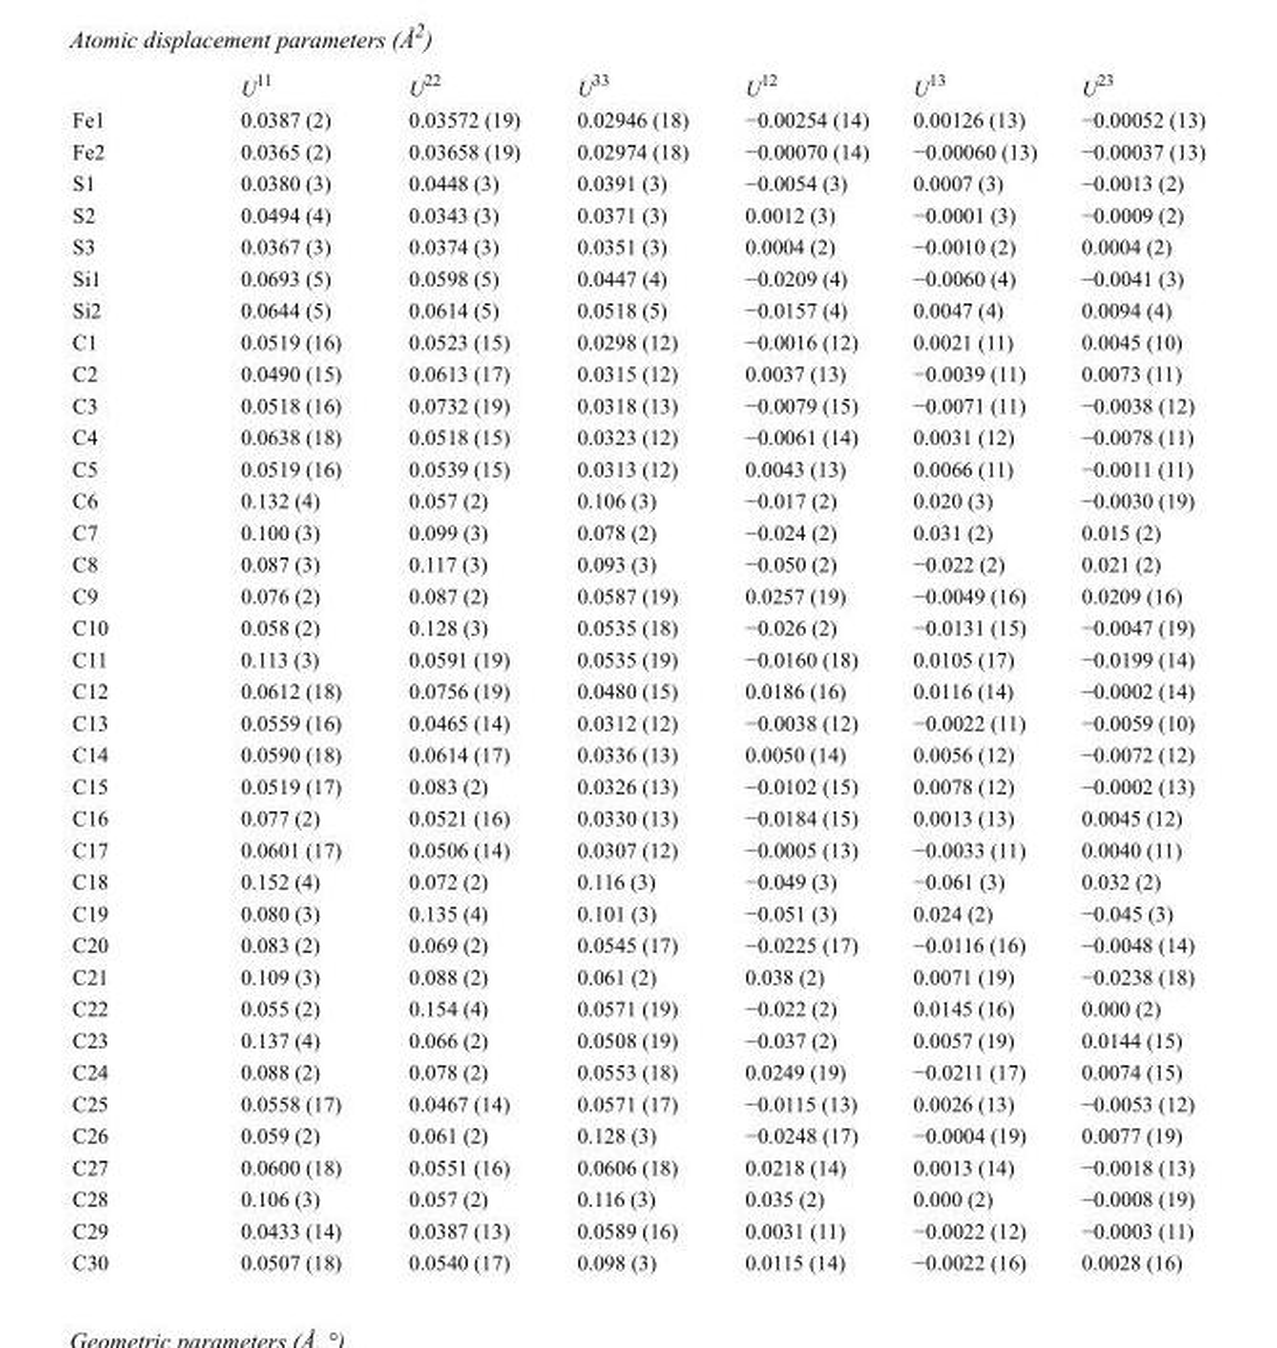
<table><thead><tr><td></td><td>U<sup>11</sup></td><td>U<sup>22</sup></td><td>U<sup>33</sup></td><td>U<sup>12</sup></td><td>U<sup>13</sup></td><td>U<sup>23</sup></td></tr></thead><tbody><tr><td>Fe1</td><td>0.0387 (2)</td><td>0.03572 (19)</td><td>0.02946 (18)</td><td>−0.00254 (14)</td><td>0.00126 (13)</td><td>−0.00052 (13)</td></tr><tr><td>Fe2</td><td>0.0365 (2)</td><td>0.03658 (19)</td><td>0.02974 (18)</td><td>−0.00070 (14)</td><td>−0.00060 (13)</td><td>−0.00037 (13)</td></tr><tr><td>S1</td><td>0.0380 (3)</td><td>0.0448 (3)</td><td>0.0391 (3)</td><td>−0.0054 (3)</td><td>0.0007 (3)</td><td>−0.0013 (2)</td></tr><tr><td>S2</td><td>0.0494 (4)</td><td>0.0343 (3)</td><td>0.0371 (3)</td><td>0.0012 (3)</td><td>−0.0001 (3)</td><td>−0.0009 (2)</td></tr><tr><td>S3</td><td>0.0367 (3)</td><td>0.0374 (3)</td><td>0.0351 (3)</td><td>0.0004 (2)</td><td>−0.0010 (2)</td><td>0.0004 (2)</td></tr><tr><td>Si1</td><td>0.0693 (5)</td><td>0.0598 (5)</td><td>0.0447 (4)</td><td>−0.0209 (4)</td><td>−0.0060 (4)</td><td>−0.0041 (3)</td></tr><tr><td>Si2</td><td>0.0644 (5)</td><td>0.0614 (5)</td><td>0.0518 (5)</td><td>−0.0157 (4)</td><td>0.0047 (4)</td><td>0.0094 (4)</td></tr><tr><td>C1</td><td>0.0519 (16)</td><td>0.0523 (15)</td><td>0.0298 (12)</td><td>−0.0016 (12)</td><td>0.0021 (11)</td><td>0.0045 (10)</td></tr><tr><td>C2</td><td>0.0490 (15)</td><td>0.0613 (17)</td><td>0.0315 (12)</td><td>0.0037 (13)</td><td>−0.0039 (11)</td><td>0.0073 (11)</td></tr><tr><td>C3</td><td>0.0518 (16)</td><td>0.0732 (19)</td><td>0.0318 (13)</td><td>−0.0079 (15)</td><td>−0.0071 (11)</td><td>−0.0038 (12)</td></tr><tr><td>C4</td><td>0.0638 (18)</td><td>0.0518 (15)</td><td>0.0323 (12)</td><td>−0.0061 (14)</td><td>0.0031 (12)</td><td>−0.0078 (11)</td></tr><tr><td>C5</td><td>0.0519 (16)</td><td>0.0539 (15)</td><td>0.0313 (12)</td><td>0.0043 (13)</td><td>0.0066 (11)</td><td>−0.0011 (11)</td></tr><tr><td>C6</td><td>0.132 (4)</td><td>0.057 (2)</td><td>0.106 (3)</td><td>−0.017 (2)</td><td>0.020 (3)</td><td>−0.0030 (19)</td></tr><tr><td>C7</td><td>0.100 (3)</td><td>0.099 (3)</td><td>0.078 (2)</td><td>−0.024 (2)</td><td>0.031 (2)</td><td>0.015 (2)</td></tr><tr><td>C8</td><td>0.087 (3)</td><td>0.117 (3)</td><td>0.093 (3)</td><td>−0.050 (2)</td><td>−0.022 (2)</td><td>0.021 (2)</td></tr><tr><td>C9</td><td>0.076 (2)</td><td>0.087 (2)</td><td>0.0587 (19)</td><td>0.0257 (19)</td><td>−0.0049 (16)</td><td>0.0209 (16)</td></tr><tr><td>C10</td><td>0.058 (2)</td><td>0.128 (3)</td><td>0.0535 (18)</td><td>−0.026 (2)</td><td>−0.0131 (15)</td><td>−0.0047 (19)</td></tr><tr><td>C11</td><td>0.113 (3)</td><td>0.0591 (19)</td><td>0.0535 (19)</td><td>−0.0160 (18)</td><td>0.0105 (17)</td><td>−0.0199 (14)</td></tr><tr><td>C12</td><td>0.0612 (18)</td><td>0.0756 (19)</td><td>0.0480 (15)</td><td>0.0186 (16)</td><td>0.0116 (14)</td><td>−0.0002 (14)</td></tr><tr><td>C13</td><td>0.0559 (16)</td><td>0.0465 (14)</td><td>0.0312 (12)</td><td>−0.0038 (12)</td><td>−0.0022 (11)</td><td>−0.0059 (10)</td></tr><tr><td>C14</td><td>0.0590 (18)</td><td>0.0614 (17)</td><td>0.0336 (13)</td><td>0.0050 (14)</td><td>0.0056 (12)</td><td>−0.0072 (12)</td></tr><tr><td>C15</td><td>0.0519 (17)</td><td>0.083 (2)</td><td>0.0326 (13)</td><td>−0.0102 (15)</td><td>0.0078 (12)</td><td>−0.0002 (13)</td></tr><tr><td>C16</td><td>0.077 (2)</td><td>0.0521 (16)</td><td>0.0330 (13)</td><td>−0.0184 (15)</td><td>0.0013 (13)</td><td>0.0045 (12)</td></tr><tr><td>C17</td><td>0.0601 (17)</td><td>0.0506 (14)</td><td>0.0307 (12)</td><td>−0.0005 (13)</td><td>−0.0033 (11)</td><td>0.0040 (11)</td></tr><tr><td>C18</td><td>0.152 (4)</td><td>0.072 (2)</td><td>0.116 (3)</td><td>−0.049 (3)</td><td>−0.061 (3)</td><td>0.032 (2)</td></tr><tr><td>C19</td><td>0.080 (3)</td><td>0.135 (4)</td><td>0.101 (3)</td><td>−0.051 (3)</td><td>0.024 (2)</td><td>−0.045 (3)</td></tr><tr><td>C20</td><td>0.083 (2)</td><td>0.069 (2)</td><td>0.0545 (17)</td><td>−0.0225 (17)</td><td>−0.0116 (16)</td><td>−0.0048 (14)</td></tr><tr><td>C21</td><td>0.109 (3)</td><td>0.088 (2)</td><td>0.061 (2)</td><td>0.038 (2)</td><td>0.0071 (19)</td><td>−0.0238 (18)</td></tr><tr><td>C22</td><td>0.055 (2)</td><td>0.154 (4)</td><td>0.0571 (19)</td><td>−0.022 (2)</td><td>0.0145 (16)</td><td>0.000 (2)</td></tr><tr><td>C23</td><td>0.137 (4)</td><td>0.066 (2)</td><td>0.0508 (19)</td><td>−0.037 (2)</td><td>0.0057 (19)</td><td>0.0144 (15)</td></tr><tr><td>C24</td><td>0.088 (2)</td><td>0.078 (2)</td><td>0.0553 (18)</td><td>0.0249 (19)</td><td>−0.0211 (17)</td><td>0.0074 (15)</td></tr><tr><td>C25</td><td>0.0558 (17)</td><td>0.0467 (14)</td><td>0.0571 (17)</td><td>−0.0115 (13)</td><td>0.0026 (13)</td><td>−0.0053 (12)</td></tr><tr><td>C26</td><td>0.059 (2)</td><td>0.061 (2)</td><td>0.128 (3)</td><td>−0.0248 (17)</td><td>−0.0004 (19)</td><td>0.0077 (19)</td></tr><tr><td>C27</td><td>0.0600 (18)</td><td>0.0551 (16)</td><td>0.0606 (18)</td><td>0.0218 (14)</td><td>0.0013 (14)</td><td>−0.0018 (13)</td></tr><tr><td>C28</td><td>0.106 (3)</td><td>0.057 (2)</td><td>0.116 (3)</td><td>0.035 (2)</td><td>0.000 (2)</td><td>−0.0008 (19)</td></tr><tr><td>C29</td><td>0.0433 (14)</td><td>0.0387 (13)</td><td>0.0589 (16)</td><td>0.0031 (11)</td><td>−0.0022 (12)</td><td>−0.0003 (11)</td></tr><tr><td>C30</td><td>0.0507 (18)</td><td>0.0540 (17)</td><td>0.098 (3)</td><td>0.0115 (14)</td><td>−0.0022 (16)</td><td>0.0028 (16)</td></tr></tbody></table>